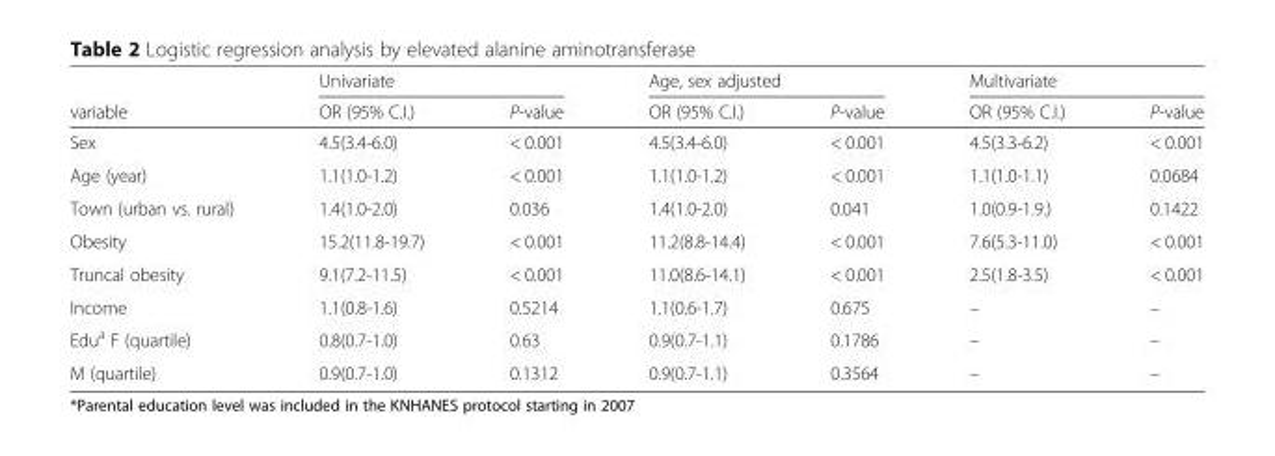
<table><thead><tr><td rowspan="2">variable</td><td colspan="2">Univariate</td><td colspan="2">Age, sex adjusted</td><td colspan="2">Multivariate</td></tr><tr><td>OR (95% C.I.)</td><td>P-value</td><td>OR (95% C.I.)</td><td>P-value</td><td>OR (95% C.I.)</td><td>P-value</td></tr></thead><tbody><tr><td>Sex</td><td>4.5(3.4-6.0)</td><td>&lt; 0.001</td><td>4.5(3.4-6.0)</td><td>&lt; 0.001</td><td>4.5(3.3-6.2)</td><td>&lt; 0.001</td></tr><tr><td>Age (year)</td><td>1.1(1.0-1.2)</td><td>&lt; 0.001</td><td>1.1(1.0-1.2)</td><td>&lt; 0.001</td><td>1.1(1.0-1.1)</td><td>0.0684</td></tr><tr><td>Town (urban vs. rural)</td><td>1.4(1.0-2.0)</td><td>0.036</td><td>1.4(1.0-2.0)</td><td>0.041</td><td>1.0(0.9-1.9.)</td><td>0.1422</td></tr><tr><td>Obesity</td><td>15.2(11.8-19.7)</td><td>&lt; 0.001</td><td>11.2(8.8-14.4)</td><td>&lt; 0.001</td><td>7.6(5.3-11.0)</td><td>&lt; 0.001</td></tr><tr><td>Truncal obesity</td><td>9.1(7.2-11.5)</td><td>&lt; 0.001</td><td>11.0(8.6-14.1)</td><td>&lt; 0.001</td><td>2.5(1.8-3.5)</td><td>&lt; 0.001</td></tr><tr><td>Income</td><td>1.1(0.8-1.6)</td><td>0.5214</td><td>1.1(0.6-1.7)</td><td>0.675</td><td>–</td><td>–</td></tr><tr><td>Edu<sup>a</sup> F (quartile)</td><td>0.8(0.7-1.0)</td><td>0.63</td><td>0.9(0.7-1.1)</td><td>0.1786</td><td>–</td><td>–</td></tr><tr><td>M (quartile)</td><td>0.9(0.7-1.0)</td><td>0.1312</td><td>0.9(0.7-1.1)</td><td>0.3564</td><td>–</td><td>–</td></tr></tbody></table>